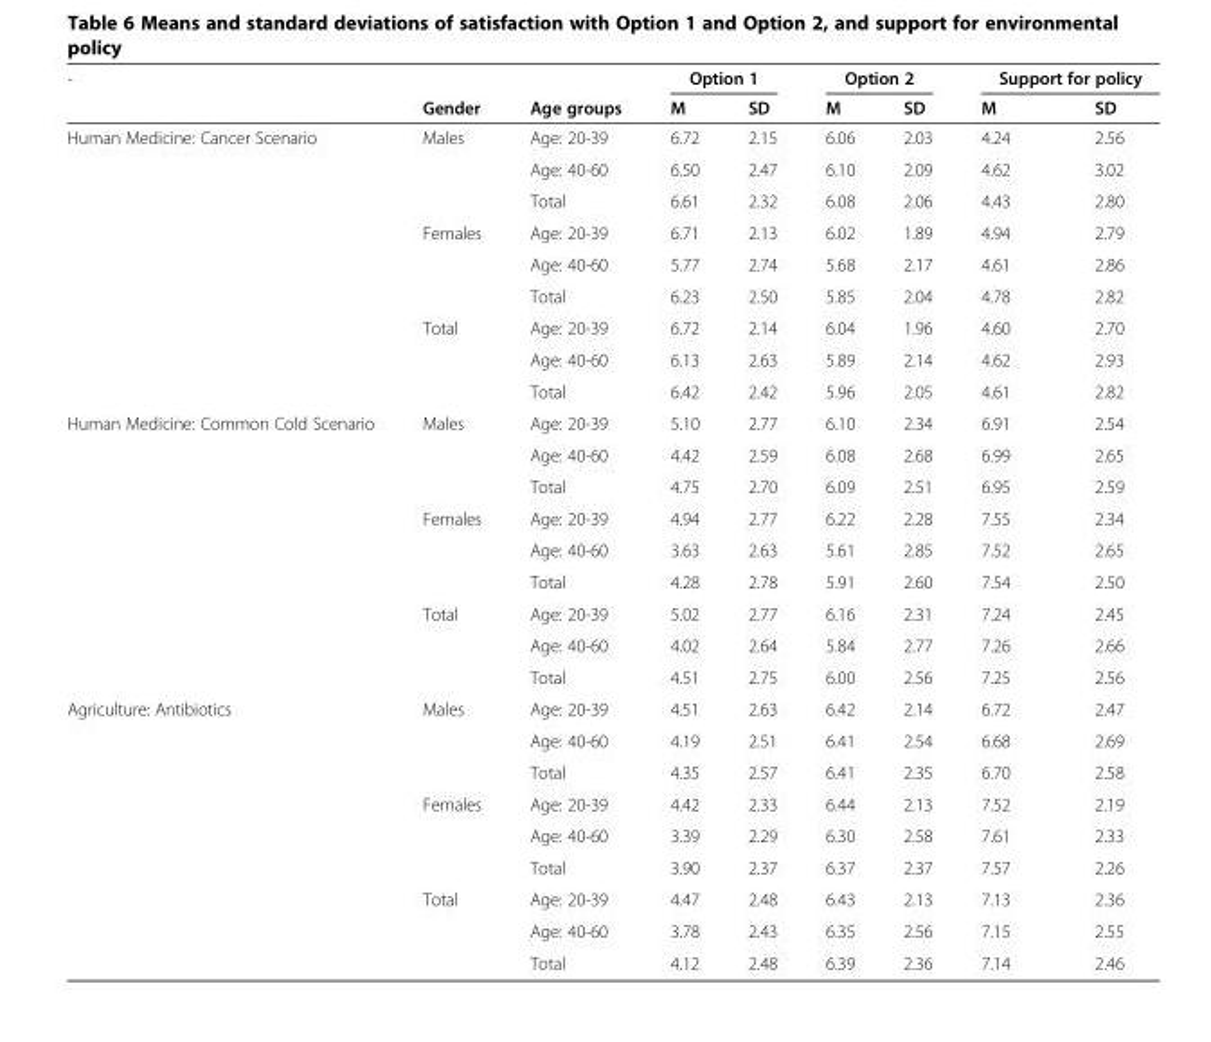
<table><thead><tr><td rowspan="2">-</td><td rowspan="2">Gender</td><td rowspan="2">Age groups</td><td colspan="2">Option 1</td><td colspan="2">Option 2</td><td colspan="2">Support for policy</td></tr><tr><td>M</td><td>SD</td><td>M</td><td>SD</td><td>M</td><td>SD</td></tr></thead><tbody><tr><td rowspan="9">Human Medicine: Cancer Scenario</td><td rowspan="3">Males</td><td>Age: 20-39</td><td>6.72</td><td>2.15</td><td>6.06</td><td>2.03</td><td>4.24</td><td>2.56</td></tr><tr><td>Age: 40-60</td><td>6.50</td><td>2.47</td><td>6.10</td><td>2.09</td><td>4.62</td><td>3.02</td></tr><tr><td>Total</td><td>6.61</td><td>2.32</td><td>6.08</td><td>2.06</td><td>4.43</td><td>2.80</td></tr><tr><td rowspan="3">Females</td><td>Age: 20-39</td><td>6.71</td><td>2.13</td><td>6.02</td><td>1.89</td><td>4.94</td><td>2.79</td></tr><tr><td>Age: 40-60</td><td>5.77</td><td>2.74</td><td>5.68</td><td>2.17</td><td>4.61</td><td>2.86</td></tr><tr><td>Total</td><td>6.23</td><td>2.50</td><td>5.85</td><td>2.04</td><td>4.78</td><td>2.82</td></tr><tr><td rowspan="3">Total</td><td>Age: 20-39</td><td>6.72</td><td>2.14</td><td>6.04</td><td>1.96</td><td>4.60</td><td>2.70</td></tr><tr><td>Age: 40-60</td><td>6.13</td><td>2.63</td><td>5.89</td><td>2.14</td><td>4.62</td><td>2.93</td></tr><tr><td>Total</td><td>6.42</td><td>2.42</td><td>5.96</td><td>2.05</td><td>4.61</td><td>2.82</td></tr><tr><td rowspan="9">Human Medicine: Common Cold Scenario</td><td rowspan="3">Males</td><td>Age: 20-39</td><td>5.10</td><td>2.77</td><td>6.10</td><td>2.34</td><td>6.91</td><td>2.54</td></tr><tr><td>Age: 40-60</td><td>4.42</td><td>2.59</td><td>6.08</td><td>2.68</td><td>6.99</td><td>2.65</td></tr><tr><td>Total</td><td>4.75</td><td>2.70</td><td>6.09</td><td>2.51</td><td>6.95</td><td>2.59</td></tr><tr><td rowspan="3">Females</td><td>Age: 20-39</td><td>4.94</td><td>2.77</td><td>6.22</td><td>2.28</td><td>7.55</td><td>2.34</td></tr><tr><td>Age: 40-60</td><td>3.63</td><td>2.63</td><td>5.61</td><td>2.85</td><td>7.52</td><td>2.65</td></tr><tr><td>Total</td><td>4.28</td><td>2.78</td><td>5.91</td><td>2.60</td><td>7.54</td><td>2.50</td></tr><tr><td rowspan="3">Total</td><td>Age: 20-39</td><td>5.02</td><td>2.77</td><td>6.16</td><td>2.31</td><td>7.24</td><td>2.45</td></tr><tr><td>Age: 40-60</td><td>4.02</td><td>2.64</td><td>5.84</td><td>2.77</td><td>7.26</td><td>2.66</td></tr><tr><td>Total</td><td>4.51</td><td>2.75</td><td>6.00</td><td>2.56</td><td>7.25</td><td>2.56</td></tr><tr><td rowspan="9">Agriculture: Antibiotics</td><td>Males</td><td>Age: 20-39</td><td>4.51</td><td>2.63</td><td>6.42</td><td>2.14</td><td>6.72</td><td>2.47</td></tr><tr><td></td><td>Age: 40-60</td><td>4.19</td><td>2.51</td><td>6.41</td><td>2.54</td><td>6.68</td><td>2.69</td></tr><tr><td></td><td>Total</td><td>4.35</td><td>2.57</td><td>6.41</td><td>2.35</td><td>6.70</td><td>2.58</td></tr><tr><td>Females</td><td>Age: 20-39</td><td>4.42</td><td>2.33</td><td>6.44</td><td>2.13</td><td>7.52</td><td>2.19</td></tr><tr><td></td><td>Age: 40-60</td><td>3.39</td><td>2.29</td><td>6.30</td><td>2.58</td><td>7.61</td><td>2.33</td></tr><tr><td></td><td>Total</td><td>3.90</td><td>2.37</td><td>6.37</td><td>2.37</td><td>7.57</td><td>2.26</td></tr><tr><td>Total</td><td>Age: 20-39</td><td>4.47</td><td>2.48</td><td>6.43</td><td>2.13</td><td>7.13</td><td>2.36</td></tr><tr><td></td><td>Age: 40-60</td><td>3.78</td><td>2.43</td><td>6.35</td><td>2.56</td><td>7.15</td><td>2.55</td></tr><tr><td></td><td>Total</td><td>4.12</td><td>2.48</td><td>6.39</td><td>2.36</td><td>7.14</td><td>2.46</td></tr></tbody></table>